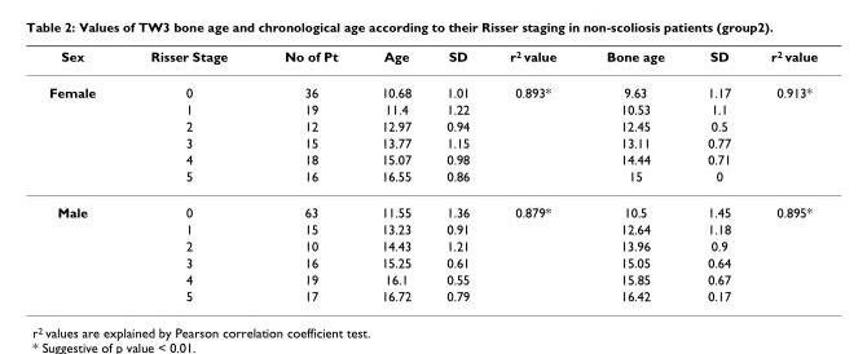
<table><thead><tr><td>Sex</td><td>Risser Stage</td><td>No of Pt</td><td>Age</td><td>SD</td><td>r<sup>2</sup> value</td><td>Bone age</td><td>SD</td><td>r<sup>2</sup> value</td></tr></thead><tbody><tr><td rowspan="6">Female</td><td>0</td><td>36</td><td>10.68</td><td>1.01</td><td>0.893*</td><td>9.63</td><td>1.17</td><td>0.913*</td></tr><tr><td>1</td><td>19</td><td>11.4</td><td>1.22</td><td></td><td>10.53</td><td>1.1</td><td></td></tr><tr><td>2</td><td>12</td><td>12.97</td><td>0.94</td><td></td><td>12.45</td><td>0.5</td><td></td></tr><tr><td>3</td><td>15</td><td>13.77</td><td>1.15</td><td></td><td>13.11</td><td>0.77</td><td></td></tr><tr><td>4</td><td>18</td><td>15.07</td><td>0.98</td><td></td><td>14.44</td><td>0.71</td><td></td></tr><tr><td>5</td><td>16</td><td>16.55</td><td>0.86</td><td></td><td>15</td><td>0</td><td></td></tr><tr><td rowspan="6">Male</td><td>0</td><td>63</td><td>11.55</td><td>1.36</td><td>0.879*</td><td>10.5</td><td>1.45</td><td>0.895*</td></tr><tr><td>1</td><td>15</td><td>13.23</td><td>0.91</td><td></td><td>12.64</td><td>1.18</td><td></td></tr><tr><td>2</td><td>10</td><td>14.43</td><td>1.21</td><td></td><td>13.96</td><td>0.9</td><td></td></tr><tr><td>3</td><td>16</td><td>15.25</td><td>0.61</td><td></td><td>15.05</td><td>0.64</td><td></td></tr><tr><td>4</td><td>19</td><td>16.1</td><td>0.55</td><td></td><td>15.85</td><td>0.67</td><td></td></tr><tr><td>5</td><td>17</td><td>16.72</td><td>0.79</td><td></td><td>16.42</td><td>0.17</td><td></td></tr></tbody></table>